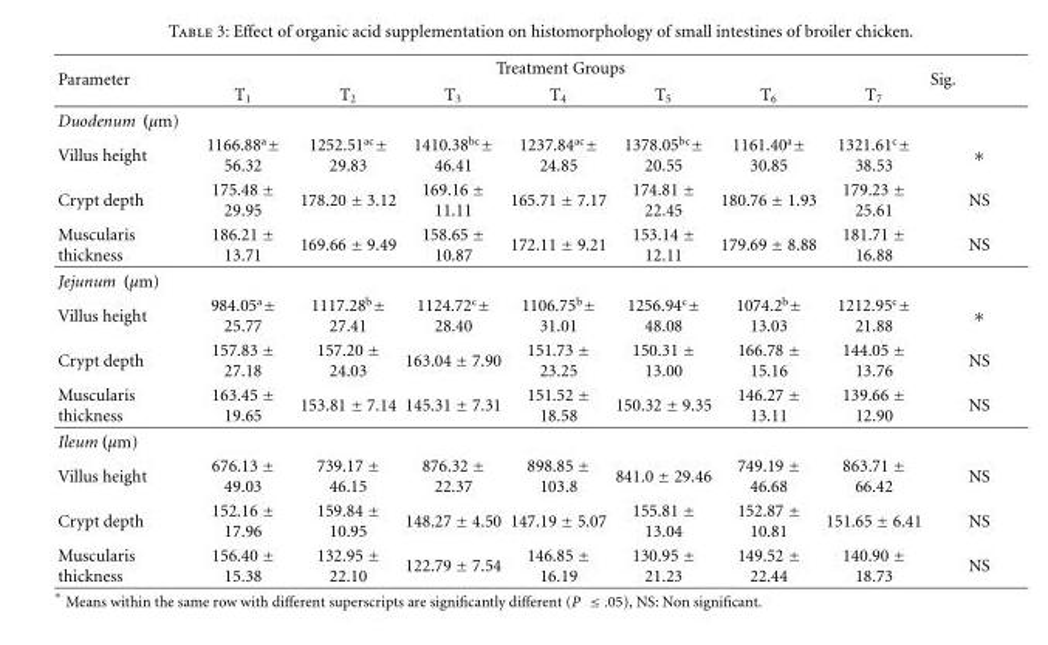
<table><thead><tr><td rowspan="2">Parameter</td><td colspan="7">Treatment Groups</td><td rowspan="2">Sig.</td></tr><tr><td>T<sub>1</sub></td><td>T<sub>2</sub></td><td>T<sub>3</sub></td><td>T<sub>4</sub></td><td>T<sub>5</sub></td><td>T<sub>6</sub></td><td>T<sub>7</sub></td></tr></thead><tbody><tr><td colspan="9">Duodenum (µm)</td></tr><tr><td>Villus height</td><td>1166.88<sup>a</sup>± 56.32</td><td>1252.51<sup>ac</sup>± 29.83</td><td>1410.38<sup>bc</sup>± 46.41</td><td>1237.84<sup>ac</sup>± 24.85</td><td>1378.05<sup>bc</sup>± 20.55</td><td>1161.40<sup>a</sup>± 30.85</td><td>1321.61<sup>c</sup>± 38.53</td><td>∗</td></tr><tr><td>Crypt depth</td><td>175.48 ± 29.95</td><td>178.20 ± 3.12</td><td>169.16 ± 11.11</td><td>165.71 ± 7.17</td><td>174.81 ± 22.45</td><td>180.76 ± 1.93</td><td>179.23 ± 25.61</td><td>NS</td></tr><tr><td>Muscularis thickness</td><td>186.21 ± 13.71</td><td>169.66 ± 9.49</td><td>158.65 ± 10.87</td><td>172.11 ± 9.21</td><td>153.14 ± 12.11</td><td>179.69 ± 8.88</td><td>181.71 ± 16.88</td><td>NS</td></tr><tr><td colspan="9">Jejunum (µm)</td></tr><tr><td>Villus height</td><td>984.05<sup>a</sup>± 25.77</td><td>1117.28<sup>b</sup>± 27.41</td><td>1124.72<sup>c</sup>± 28.40</td><td>1106.75<sup>b</sup>± 31.01</td><td>1256.94<sup>c</sup>± 48.08</td><td>1074.2<sup>b</sup>± 13.03</td><td>1212.95<sup>c</sup>± 21.88</td><td>∗</td></tr><tr><td>Crypt depth</td><td>157.83 ± 27.18</td><td>157.20 ± 24.03</td><td>163.04 ± 7.90</td><td>151.73 ± 23.25</td><td>150.31 ± 13.00</td><td>166.78 ± 15.16</td><td>144.05 ± 13.76</td><td>NS</td></tr><tr><td>Muscularis thickness</td><td>163.45 ± 19.65</td><td>153.81 ± 7.14</td><td>145.31 ± 7.31</td><td>151.52 ± 18.58</td><td>150.32 ± 9.35</td><td>146.27 ± 13.11</td><td>139.66 ± 12.90</td><td>NS</td></tr><tr><td colspan="9">Ileum (µm)</td></tr><tr><td>Villus height</td><td>676.13 ± 49.03</td><td>739.17 ± 46.15</td><td>876.32 ± 22.37</td><td>898.85 ± 103.8</td><td>841.0 ± 29.46</td><td>749.19 ± 46.68</td><td>863.71 ± 66.42</td><td>NS</td></tr><tr><td>Crypt depth</td><td>152.16 ± 17.96</td><td>159.84 ± 10.95</td><td>148.27 ± 4.50</td><td>147.19 ± 5.07</td><td>155.81 ± 13.04</td><td>152.87 ± 10.81</td><td>151.65 ± 6.41</td><td>NS</td></tr><tr><td>Muscularis thickness</td><td>156.40 ± 15.38</td><td>132.95 ± 22.10</td><td>122.79 ± 7.54</td><td>146.85 ± 16.19</td><td>130.95 ± 21.23</td><td>149.52 ± 22.44</td><td>140.90 ± 18.73</td><td>NS</td></tr></tbody></table>